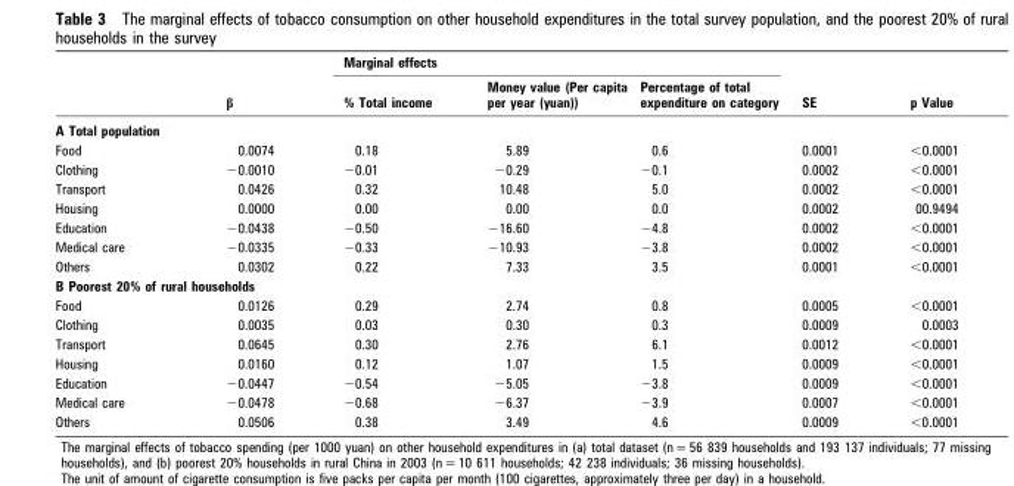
<table><thead><tr><td rowspan="2"></td><td rowspan="2">β</td><td colspan="3">Marginal effects</td><td rowspan="2">SE</td><td rowspan="2">p Value</td></tr><tr><td>% Total income</td><td>Money value (Per capita per year (yuan))</td><td>Percentage of total expenditure on category</td></tr></thead><tbody><tr><td colspan="7">A Total population</td></tr><tr><td>Food</td><td>0.0074</td><td>0.18</td><td>5.89</td><td>0.6</td><td>0.0001</td><td>&lt;0.0001</td></tr><tr><td>Clothing</td><td>−0.0010</td><td>−0.01</td><td>−0.29</td><td>−0.1</td><td>0.0002</td><td>&lt;0.0001</td></tr><tr><td>Transport</td><td>0.0426</td><td>0.32</td><td>10.48</td><td>5.0</td><td>0.0002</td><td>&lt;0.0001</td></tr><tr><td>Housing</td><td>0.0000</td><td>0.00</td><td>0.00</td><td>0.0</td><td>0.0002</td><td>00.9494</td></tr><tr><td>Education</td><td>−0.0438</td><td>−0.50</td><td>−16.60</td><td>−4.8</td><td>0.0002</td><td>&lt;0.0001</td></tr><tr><td>Medical care</td><td>−0.0335</td><td>−0.33</td><td>−10.93</td><td>−3.8</td><td>0.0002</td><td>&lt;0.0001</td></tr><tr><td>Others</td><td>0.0302</td><td>0.22</td><td>7.33</td><td>3.5</td><td>0.0001</td><td>&lt;0.0001</td></tr><tr><td colspan="7">B Poorest 20% of rural households</td></tr><tr><td>Food</td><td>0.0126</td><td>0.29</td><td>2.74</td><td>0.8</td><td>0.0005</td><td>&lt;0.0001</td></tr><tr><td>Clothing</td><td>0.0035</td><td>0.03</td><td>0.30</td><td>0.3</td><td>0.0009</td><td>0.0003</td></tr><tr><td>Transport</td><td>0.0645</td><td>0.30</td><td>2.76</td><td>6.1</td><td>0.0012</td><td>&lt;0.0001</td></tr><tr><td>Housing</td><td>0.0160</td><td>0.12</td><td>1.07</td><td>1.5</td><td>0.0009</td><td>&lt;0.0001</td></tr><tr><td>Education</td><td>−0.0447</td><td>−0.54</td><td>−5.05</td><td>−3.8</td><td>0.0009</td><td>&lt;0.0001</td></tr><tr><td>Medical care</td><td>−0.0478</td><td>−0.68</td><td>−6.37</td><td>−3.9</td><td>0.0007</td><td>&lt;0.0001</td></tr><tr><td>Others</td><td>0.0506</td><td>0.38</td><td>3.49</td><td>4.6</td><td>0.0009</td><td>&lt;0.0001</td></tr></tbody></table>